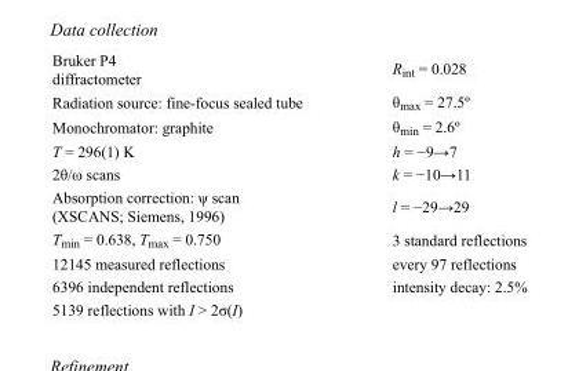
<table><tbody><tr><td>Bruker P4 diffractometer</td><td>R<sub>int</sub> = 0.028</td></tr><tr><td>Radiation source: fine-focus sealed tube</td><td>θ<sub>max</sub> = 27.5º</td></tr><tr><td>Monochromator: graphite</td><td>θ<sub>min</sub> = 2.6º</td></tr><tr><td>T = 296(1) K</td><td>h = −9→7</td></tr><tr><td>2θ/ω scans</td><td>k = −10→11</td></tr><tr><td>Absorption correction: ψ scan (XSCANS; Siemens, 1996)</td><td>l = −29→29</td></tr><tr><td>T<sub>min</sub> = 0.638, T<sub>max</sub> = 0.750</td><td>3 standard reflections</td></tr><tr><td>12145 measured reflections</td><td>every 97 reflections</td></tr><tr><td>6396 independent reflections</td><td>intensity decay: 2.5%</td></tr><tr><td>5139 reflections with I &gt; 2σ(I)</td><td></td></tr></tbody></table>